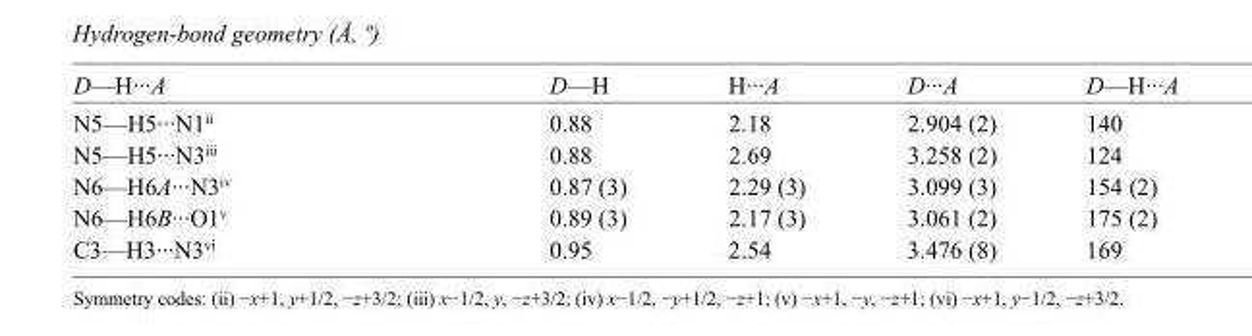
<table><tbody><tr><td>D—H···A</td><td>D—H</td><td>H···A</td><td>D···A</td><td>D—H···A</td></tr><tr><td>N5—H5···N1<sup>ii</sup></td><td>0.88</td><td>2.18</td><td>2.904 (2)</td><td>140</td></tr><tr><td>N5—H5···N3<sup>iii</sup></td><td>0.88</td><td>2.69</td><td>3.258 (2)</td><td>124</td></tr><tr><td>N6—H6A···N3<sup>iv</sup></td><td>0.87 (3)</td><td>2.29 (3)</td><td>3.099 (3)</td><td>154 (2)</td></tr><tr><td>N6—H6B···O1<sup>v</sup></td><td>0.89 (3)</td><td>2.17 (3)</td><td>3.061 (2)</td><td>175 (2)</td></tr><tr><td>C3—H3···N3<sup>vi</sup></td><td>0.95</td><td>2.54</td><td>3.476 (8)</td><td>169</td></tr></tbody></table>